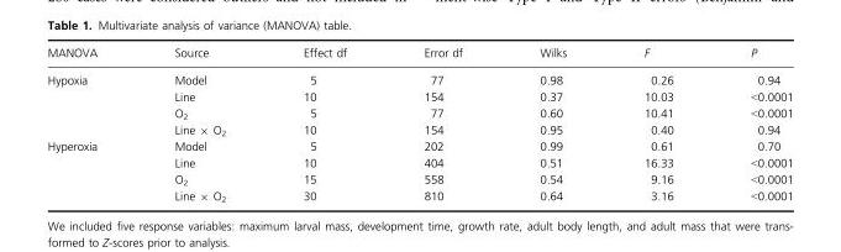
<table><thead><tr><td>MANOVA</td><td>Source</td><td>Effect df</td><td>Error df</td><td>Wilks</td><td>F</td><td>P</td></tr></thead><tbody><tr><td rowspan="4">Hypoxia</td><td>Model</td><td>5</td><td>77</td><td>0.98</td><td>0.26</td><td>0.94</td></tr><tr><td>Line</td><td>10</td><td>154</td><td>0.37</td><td>10.03</td><td>&lt;0.0001</td></tr><tr><td>O<sub>2</sub></td><td>5</td><td>77</td><td>0.60</td><td>10.41</td><td>&lt;0.0001</td></tr><tr><td>Line × O<sub>2</sub></td><td>10</td><td>154</td><td>0.95</td><td>0.40</td><td>0.94</td></tr><tr><td rowspan="4">Hyperoxia</td><td>Model</td><td>5</td><td>202</td><td>0.99</td><td>0.61</td><td>0.70</td></tr><tr><td>Line</td><td>10</td><td>404</td><td>0.51</td><td>16.33</td><td>&lt;0.0001</td></tr><tr><td>O<sub>2</sub></td><td>15</td><td>558</td><td>0.54</td><td>9.16</td><td>&lt;0.0001</td></tr><tr><td>Line × O<sub>2</sub></td><td>30</td><td>810</td><td>0.64</td><td>3.16</td><td>&lt;0.0001</td></tr></tbody></table>